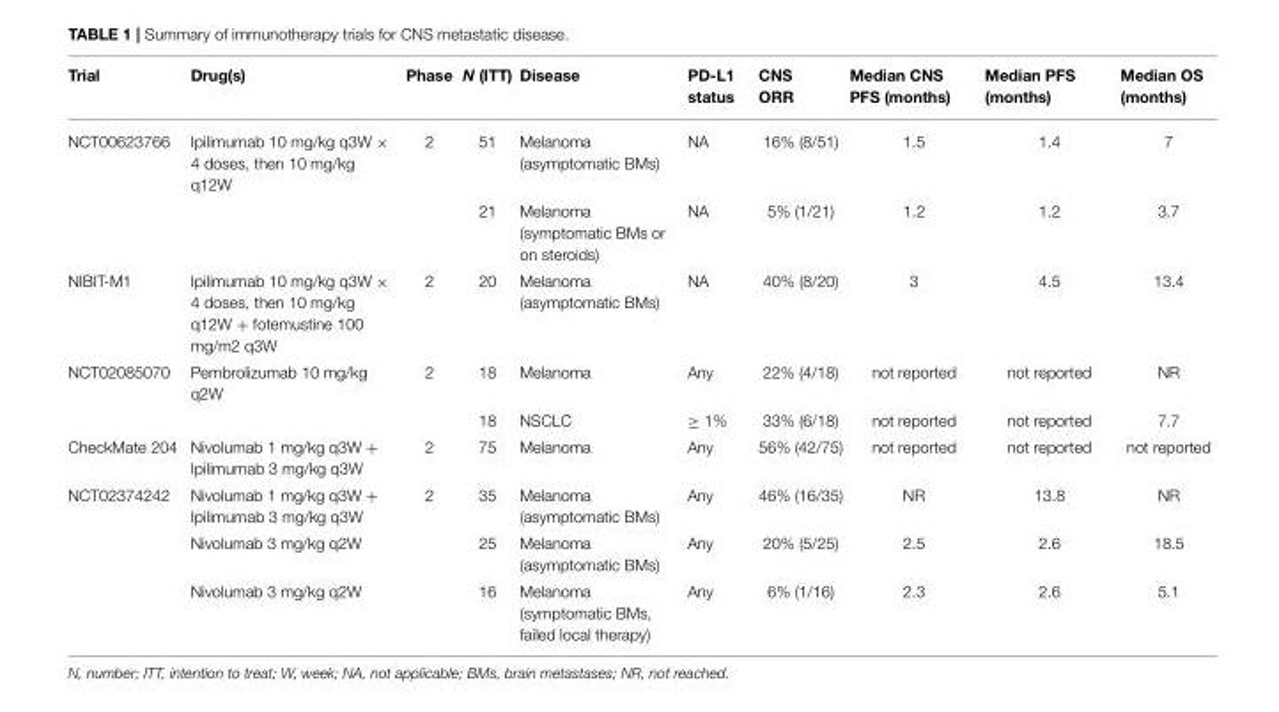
<table><thead><tr><td>Trial</td><td>Drug(s)</td><td>Phase</td><td>N (ITT)</td><td>Disease</td><td>PD-L1 status</td><td>CNS ORR</td><td>Median CNS PFS (months)</td><td>Median PFS (months)</td><td>Median OS (months)</td></tr></thead><tbody><tr><td rowspan="2">NCT00623766</td><td>Ipilimumab 10 mg/kg q3W × 4 doses, then 10 mg/kg q12W</td><td>2</td><td>51</td><td>Melanoma (asymptomatic BMs)</td><td>NA</td><td>16% (8/51)</td><td>1.5</td><td>1.4</td><td>7</td></tr><tr><td></td><td></td><td>21</td><td>Melanoma (symptomatic BMs or on steroids)</td><td>NA</td><td>5% (1/21)</td><td>1.2</td><td>1.2</td><td>3.7</td></tr><tr><td>NIBIT-M1</td><td>Ipilimumab 10 mg/kg q3W × 4 doses, then 10 mg/kg q12W + fotemustine 100 mg/m2 q3W</td><td>2</td><td>20</td><td>Melanoma (asymptomatic BMs)</td><td>NA</td><td>40% (8/20)</td><td>3</td><td>4.5</td><td>13.4</td></tr><tr><td rowspan="2">NCT02085070</td><td>Pembrolizumab 10 mg/kg q2W</td><td>2</td><td>18</td><td>Melanoma</td><td>Any</td><td>22% (4/18)</td><td>not reported</td><td>not reported</td><td>NR</td></tr><tr><td></td><td></td><td>18</td><td>NSCLC</td><td>≥ 1%</td><td>33% (6/18)</td><td>not reported</td><td>not reported</td><td>7.7</td></tr><tr><td>CheckMate 204</td><td>Nivolumab 1 mg/kg q3W + Ipilimumab 3 mg/kg q3W</td><td>2</td><td>75</td><td>Melanoma</td><td>Any</td><td>56% (42/75)</td><td>not reported</td><td>not reported</td><td>not reported</td></tr><tr><td rowspan="3">NCT02374242</td><td>Nivolumab 1 mg/kg q3W + Ipilimumab 3 mg/kg q3W</td><td>2</td><td>35</td><td>Melanoma (asymptomatic BMs)</td><td>Any</td><td>46% (16/35)</td><td>NR</td><td>13.8</td><td>NR</td></tr><tr><td>Nivolumab 3 mg/kg q2W</td><td></td><td>25</td><td>Melanoma (asymptomatic BMs)</td><td>Any</td><td>20% (5/25)</td><td>2.5</td><td>2.6</td><td>18.5</td></tr><tr><td>Nivolumab 3 mg/kg q2W</td><td></td><td>16</td><td>Melanoma (symptomatic BMs, failed local therapy)</td><td>Any</td><td>6% (1/16)</td><td>2.3</td><td>2.6</td><td>5.1</td></tr></tbody></table>